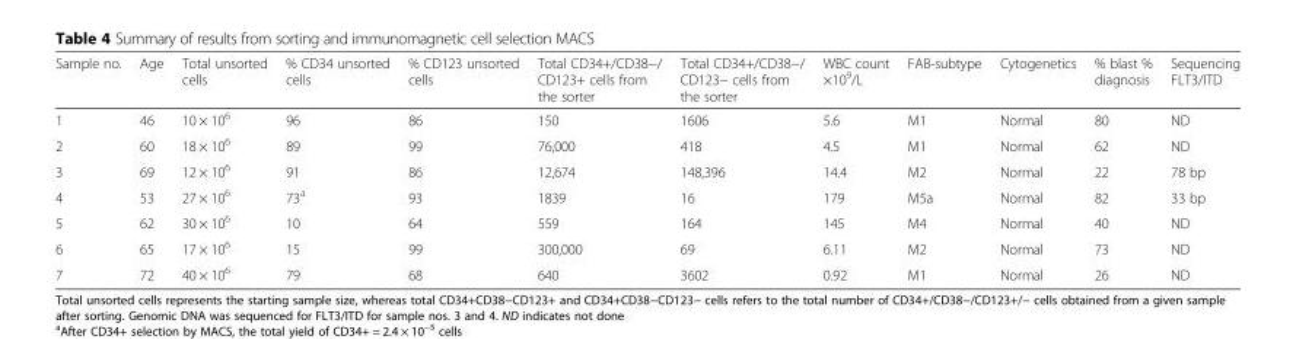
<table><thead><tr><td>Sample no.</td><td>Age</td><td>Total unsorted cells</td><td>% CD34 unsorted cells</td><td>% CD123 unsorted cells</td><td>Total CD34+/CD38−/ CD123+ cells from the sorter</td><td>Total CD34+/CD38−/ CD123− cells from the sorter</td><td>WBC count ×10<sup>9</sup>/L</td><td>FAB-subtype</td><td>Cytogenetics</td><td>% blast % diagnosis</td><td>Sequencing FLT3/ITD</td></tr></thead><tbody><tr><td>1</td><td>46</td><td>10 × 10<sup>6</sup></td><td>96</td><td>86</td><td>150</td><td>1606</td><td>5.6</td><td>M1</td><td>Normal</td><td>80</td><td>ND</td></tr><tr><td>2</td><td>60</td><td>18 × 10<sup>6</sup></td><td>89</td><td>99</td><td>76,000</td><td>418</td><td>4.5</td><td>M1</td><td>Normal</td><td>62</td><td>ND</td></tr><tr><td>3</td><td>69</td><td>12 × 10<sup>6</sup></td><td>91</td><td>86</td><td>12,674</td><td>148,396</td><td>14.4</td><td>M2</td><td>Normal</td><td>22</td><td>78 bp</td></tr><tr><td>4</td><td>53</td><td>27 × 10<sup>6</sup></td><td>73<sup>a</sup></td><td>93</td><td>1839</td><td>16</td><td>179</td><td>M5a</td><td>Normal</td><td>82</td><td>33 bp</td></tr><tr><td>5</td><td>62</td><td>30 × 10<sup>6</sup></td><td>10</td><td>64</td><td>559</td><td>164</td><td>145</td><td>M4</td><td>Normal</td><td>40</td><td>ND</td></tr><tr><td>6</td><td>65</td><td>17 × 10<sup>6</sup></td><td>15</td><td>99</td><td>300,000</td><td>69</td><td>6.11</td><td>M2</td><td>Normal</td><td>73</td><td>ND</td></tr><tr><td>7</td><td>72</td><td>40 × 10<sup>6</sup></td><td>79</td><td>68</td><td>640</td><td>3602</td><td>0.92</td><td>M1</td><td>Normal</td><td>26</td><td>ND</td></tr></tbody></table>